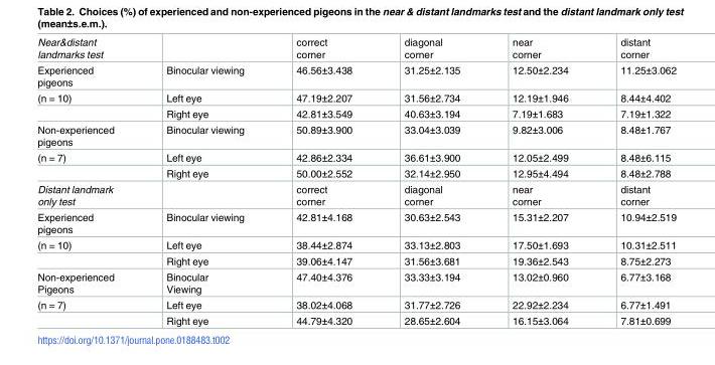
<table><tbody><tr><td>Near&amp;distant landmarks test</td><td></td><td>correct corner</td><td>diagonal corner</td><td>near corner</td><td>distant corner</td></tr><tr><td>Experienced pigeons</td><td>Binocular viewing</td><td>46.56±3.438</td><td>31.25±2.135</td><td>12.50±2.234</td><td>11.25±3.062</td></tr><tr><td rowspan="2">(n = 10)</td><td>Left eye</td><td>47.19±2.207</td><td>31.56±2.734</td><td>12.19±1.946</td><td>8.44±4.402</td></tr><tr><td>Right eye</td><td>42.81±3.549</td><td>40.63±3.194</td><td>7.19±1.683</td><td>7.19±1.322</td></tr><tr><td>Non-experienced pigeons</td><td>Binocular viewing</td><td>50.89±3.900</td><td>33.04±3.039</td><td>9.82±3.006</td><td>8.48±1.767</td></tr><tr><td rowspan="2">(n = 7)</td><td>Left eye</td><td>42.86±2.334</td><td>36.61±3.900</td><td>12.05±2.499</td><td>8.48±6.115</td></tr><tr><td>Right eye</td><td>50.00±2.552</td><td>32.14±2.950</td><td>12.95±4.494</td><td>8.48±2.788</td></tr><tr><td>Distant landmark only test</td><td></td><td>correct corner</td><td>diagonal corner</td><td>near corner</td><td>distant corner</td></tr><tr><td>Experienced pigeons</td><td>Binocular viewing</td><td>42.81±4.168</td><td>30.63±2.543</td><td>15.31±2.207</td><td>10.94±2.519</td></tr><tr><td rowspan="2">(n = 10)</td><td>Left eye</td><td>38.44±2.874</td><td>33.13±2.803</td><td>17.50±1.693</td><td>10.31±2.511</td></tr><tr><td>Right eye</td><td>39.06±4.147</td><td>31.56±3.681</td><td>19.36±2.543</td><td>8.75±2.273</td></tr><tr><td>Non-experienced Pigeons</td><td>Binocular Viewing</td><td>47.40±4.376</td><td>33.33±3.194</td><td>13.02±0.960</td><td>6.77±3.168</td></tr><tr><td rowspan="2">(n = 7)</td><td>Left eye</td><td>38.02±4.068</td><td>31.77±2.726</td><td>22.92±2.234</td><td>6.77±1.491</td></tr><tr><td>Right eye</td><td>44.79±4.320</td><td>28.65±2.604</td><td>16.15±3.064</td><td>7.81±0.699</td></tr></tbody></table>